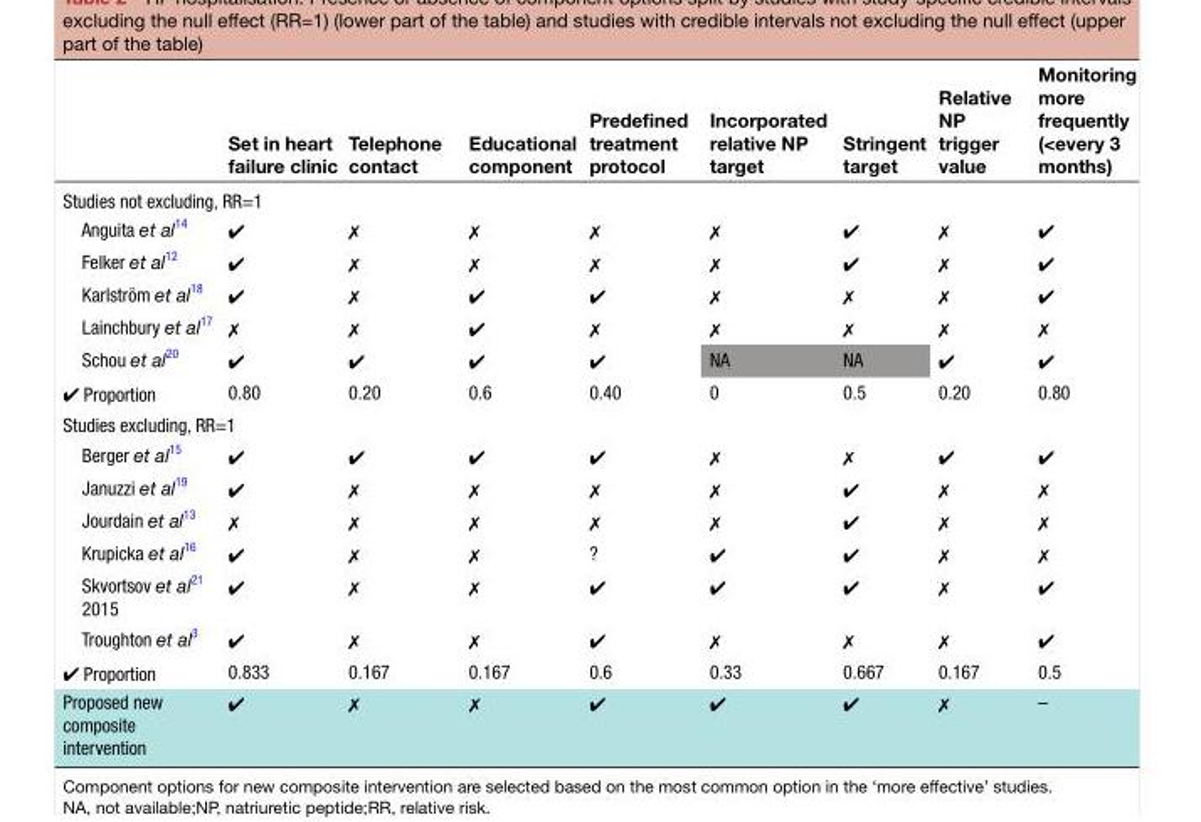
<table><thead><tr><td></td><td>Set in heart failure clinic</td><td>Telephone contact</td><td>Educational component</td><td>Predefined treatment protocol</td><td>Incorporated relative NP target</td><td>Stringent target</td><td>Relative NP trigger value</td><td>Monitoring more frequently (&lt;every 3 months)</td></tr></thead><tbody><tr><td colspan="9">Studies not excluding, RR=1</td></tr><tr><td>Anguita et al14</td><td>✔</td><td>✗</td><td>✗</td><td>✗</td><td>✗</td><td>✔</td><td>✗</td><td>✔</td></tr><tr><td>Felker et al12</td><td>✔</td><td>✗</td><td>✗</td><td>✗</td><td>✗</td><td>✔</td><td>✗</td><td>✔</td></tr><tr><td>Karlström et al18</td><td>✔</td><td>✗</td><td>✔</td><td>✔</td><td>✗</td><td>✗</td><td>✗</td><td>✔</td></tr><tr><td>Lainchbury et al17</td><td>✗</td><td>✗</td><td>✔</td><td>✗</td><td>✗</td><td>✗</td><td>✗</td><td>✗</td></tr><tr><td>Schou et al20</td><td>✔</td><td>✔</td><td>✔</td><td>✔</td><td>NA</td><td>NA</td><td>✔</td><td>✔</td></tr><tr><td>✔ Proportion</td><td>0.80</td><td>0.20</td><td>0.6</td><td>0.40</td><td>0</td><td>0.5</td><td>0.20</td><td>0.80</td></tr><tr><td colspan="9">Studies excluding, RR=1</td></tr><tr><td>Berger et al15</td><td>✔</td><td>✔</td><td>✔</td><td>✔</td><td>✗</td><td>✗</td><td>✔</td><td>✔</td></tr><tr><td>Januzzi et al19</td><td>✔</td><td>✗</td><td>✗</td><td>✗</td><td>✗</td><td>✔</td><td>✗</td><td>✗</td></tr><tr><td>Jourdain et al13</td><td>✗</td><td>✗</td><td>✗</td><td>✗</td><td>✗</td><td>✔</td><td>✗</td><td>✗</td></tr><tr><td>Krupicka et al16</td><td>✔</td><td>✗</td><td>✗</td><td>?</td><td>✔</td><td>✔</td><td>✗</td><td>✗</td></tr><tr><td>Skvortsov et al21 2015</td><td>✔</td><td>✗</td><td>✗</td><td>✔</td><td>✔</td><td>✔</td><td>✗</td><td>✔</td></tr><tr><td>Troughton et al3</td><td>✔</td><td>✗</td><td>✗</td><td>✔</td><td>✗</td><td>✗</td><td>✗</td><td>✔</td></tr><tr><td>✔ Proportion</td><td>0.833</td><td>0.167</td><td>0.167</td><td>0.6</td><td>0.33</td><td>0.667</td><td>0.167</td><td>0.5</td></tr><tr><td>Proposed new composite intervention</td><td>✔</td><td>✗</td><td>✗</td><td>✔</td><td>✔</td><td>✔</td><td>✗</td><td>–</td></tr></tbody></table>